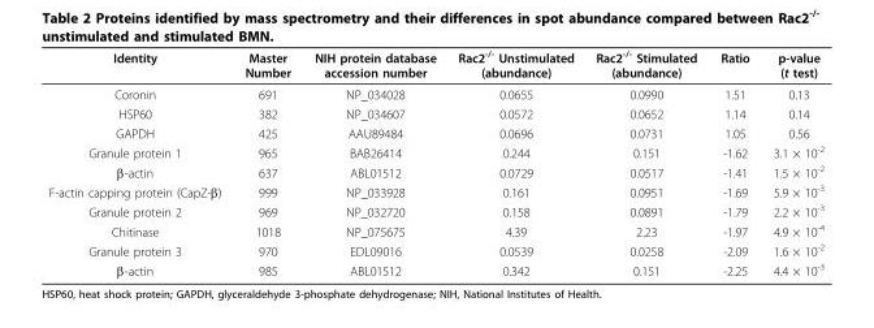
<table><thead><tr><td>Identity</td><td>Master Number</td><td>NIH protein database accession number</td><td>Rac2<sup>-/-</sup> Unstimulated (abundance)</td><td>Rac2<sup>-/-</sup> Stimulated (abundance)</td><td>Ratio</td><td>p-value (t test)</td></tr></thead><tbody><tr><td>Coronin</td><td>691</td><td>NP_034028</td><td>0.0655</td><td>0.0990</td><td>1.51</td><td>0.13</td></tr><tr><td>HSP60</td><td>382</td><td>NP_034607</td><td>0.0572</td><td>0.0652</td><td>1.14</td><td>0.14</td></tr><tr><td>GAPDH</td><td>425</td><td>AAU89484</td><td>0.0696</td><td>0.0731</td><td>1.05</td><td>0.56</td></tr><tr><td>Granule protein 1</td><td>965</td><td>BAB26414</td><td>0.244</td><td>0.151</td><td>-1.62</td><td>3.1 × 10<sup>-2</sup></td></tr><tr><td>β-actin</td><td>637</td><td>ABL01512</td><td>0.0729</td><td>0.0517</td><td>-1.41</td><td>1.5 × 10<sup>-2</sup></td></tr><tr><td>F-actin capping protein (CapZ-β)</td><td>999</td><td>NP_033928</td><td>0.161</td><td>0.0951</td><td>-1.69</td><td>5.9 × 10<sup>-3</sup></td></tr><tr><td>Granule protein 2</td><td>969</td><td>NP_032720</td><td>0.158</td><td>0.0891</td><td>-1.79</td><td>2.2 × 10<sup>-3</sup></td></tr><tr><td>Chitinase</td><td>1018</td><td>NP_075675</td><td>4.39</td><td>2.23</td><td>-1.97</td><td>4.9 × 10<sup>-4</sup></td></tr><tr><td>Granule protein 3</td><td>970</td><td>EDL09016</td><td>0.0539</td><td>0.0258</td><td>-2.09</td><td>1.6 × 10<sup>-2</sup></td></tr><tr><td>β-actin</td><td>985</td><td>ABL01512</td><td>0.342</td><td>0.151</td><td>-2.25</td><td>4.4 × 10<sup>-3</sup></td></tr></tbody></table>